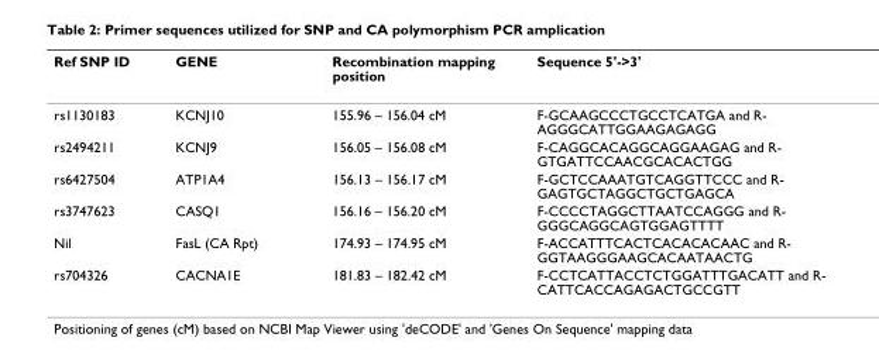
<table><thead><tr><td>Ref SNP ID</td><td>GENE</td><td>Recombination mapping position</td><td>Sequence 5&#x27;-&gt;3&#x27;</td></tr></thead><tbody><tr><td>rs1130183</td><td>KCNJ10</td><td>155.96 – 156.04 cM</td><td>F-GCAAGCCCTGCCTCATGA and R- AGGGCATTGGAAGAGAGG</td></tr><tr><td>rs2494211</td><td>KCNJ9</td><td>156.05 – 156.08 cM</td><td>F-CAGGCACAGGCAGGAAGAG and R- GTGATTCCAACGCACACTGG</td></tr><tr><td>rs6427504</td><td>ATP1A4</td><td>156.13 – 156.17 cM</td><td>F-GCTCCAAATGTCAGGTTCCC and R- GAGTGCTAGGCTGCTGAGCA</td></tr><tr><td>rs3747623</td><td>CASQ1</td><td>156.16 – 156.20 cM</td><td>F-CCCCTAGGCTTAATCCAGGG and R- GGGCAGGCAGTGGAGTTTT</td></tr><tr><td>Nil</td><td>FasL (CA Rpt)</td><td>174.93 – 174.95 cM</td><td>F-ACCATTTCACTCACACACAAC and R- GGTAAGGGAAGCACAATAACTG</td></tr><tr><td>rs704326</td><td>CACNA1E</td><td>181.83 – 182.42 cM</td><td>F-CCTCATTACCTCTGGATTTGACATT and R- CATTCACCAGAGACTGCCGTT</td></tr></tbody></table>